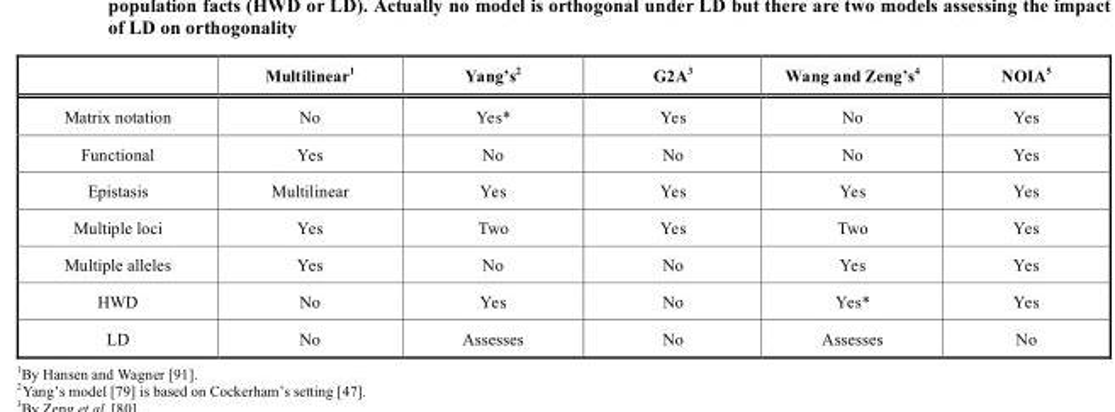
<table><thead><tr><td></td><td>Multilinear<sup>1</sup></td><td>Yang’s<sup>2</sup></td><td>G2A<sup>3</sup></td><td>Wang and Zeng’s<sup>4</sup></td><td>NOIA<sup>5</sup></td></tr></thead><tbody><tr><td>Matrix notation</td><td>No</td><td>Yes*</td><td>Yes</td><td>No</td><td>Yes</td></tr><tr><td>Functional</td><td>Yes</td><td>No</td><td>No</td><td>No</td><td>Yes</td></tr><tr><td>Epistasis</td><td>Multilinear</td><td>Yes</td><td>Yes</td><td>Yes</td><td>Yes</td></tr><tr><td>Multiple loci</td><td>Yes</td><td>Two</td><td>Yes</td><td>Two</td><td>Yes</td></tr><tr><td>Multiple alleles</td><td>Yes</td><td>No</td><td>No</td><td>Yes</td><td>Yes</td></tr><tr><td>HWD</td><td>No</td><td>Yes</td><td>No</td><td>Yes*</td><td>Yes</td></tr><tr><td>LD</td><td>No</td><td>Assesses</td><td>No</td><td>Assesses</td><td>No</td></tr></tbody></table>